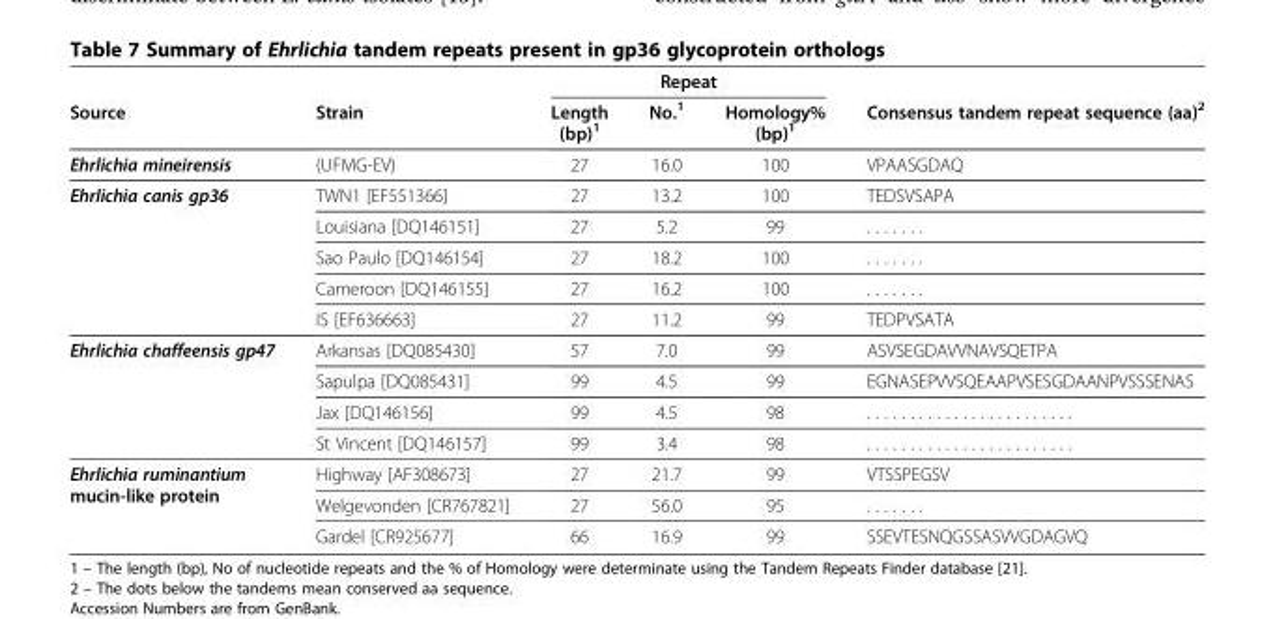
<table><thead><tr><td rowspan="2">Source</td><td rowspan="2">Strain</td><td colspan="3">Repeat</td><td rowspan="2">Consensus tandem repeat sequence (aa)<sup>2</sup></td></tr><tr><td>Length (bp)<sup>1</sup></td><td>No.<sup>1</sup></td><td>Homology% (bp)<sup>1</sup></td></tr></thead><tbody><tr><td>Ehrlichia mineirensis</td><td>(UFMG-EV)</td><td>27</td><td>16.0</td><td>100</td><td>VPAASGDAQ</td></tr><tr><td rowspan="5">Ehrlichia canis gp36</td><td>TWN1 [EF551366]</td><td>27</td><td>13.2</td><td>100</td><td>TEDSVSAPA</td></tr><tr><td>Louisiana [DQ146151]</td><td>27</td><td>5.2</td><td>99</td><td>. . . . . . .</td></tr><tr><td>Sao Paulo [DQ146154]</td><td>27</td><td>18.2</td><td>100</td><td>. . . . . . .</td></tr><tr><td>Cameroon [DQ146155]</td><td>27</td><td>16.2</td><td>100</td><td>. . . . . . .</td></tr><tr><td>IS [EF636663]</td><td>27</td><td>11.2</td><td>99</td><td>TEDPVSATA</td></tr><tr><td rowspan="4">Ehrlichia chaffeensis gp47</td><td>Arkansas [DQ085430]</td><td>57</td><td>7.0</td><td>99</td><td>ASVSEGDAVVNAVSQETPA</td></tr><tr><td>Sapulpa [DQ085431]</td><td>99</td><td>4.5</td><td>99</td><td>EGNASEPVVSQEAAPVSESGDAANPVSSSENAS</td></tr><tr><td>Jax [DQ146156]</td><td>99</td><td>4.5</td><td>98</td><td>. . . . . . . . . . . . . . . . . . . . . . . .</td></tr><tr><td>St Vincent [DQ146157]</td><td>99</td><td>3.4</td><td>98</td><td>. . . . . . . . . . . . . . . . . . . . . . . .</td></tr><tr><td rowspan="3">Ehrlichia ruminantium mucin-like protein</td><td>Highway [AF308673]</td><td>27</td><td>21.7</td><td>99</td><td>VTSSPEGSV</td></tr><tr><td>Welgevonden [CR767821]</td><td>27</td><td>56.0</td><td>95</td><td>. . . . . . .</td></tr><tr><td>Gardel [CR925677]</td><td>66</td><td>16.9</td><td>99</td><td>SSEVTESNQGSSASVVGDAGVQ</td></tr></tbody></table>